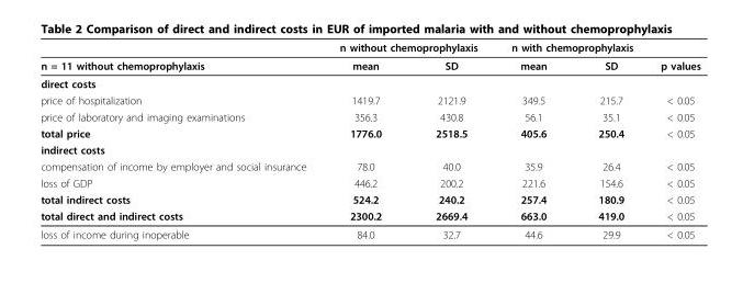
<table><thead><tr><td rowspan="2">n = 11 without chemoprophylaxis</td><td colspan="2">n without chemoprophylaxis</td><td colspan="2">n with chemoprophylaxis</td><td rowspan="2">p values</td></tr><tr><td>mean</td><td>SD</td><td>mean</td><td>SD</td></tr></thead><tbody><tr><td colspan="6">direct costs</td></tr><tr><td>price of hospitalization</td><td>1419.7</td><td>2121.9</td><td>349.5</td><td>215.7</td><td>&lt; 0.05</td></tr><tr><td>price of laboratory and imaging examinations</td><td>356.3</td><td>430.8</td><td>56.1</td><td>35.1</td><td>&lt; 0.05</td></tr><tr><td>total price</td><td>1776.0</td><td>2518.5</td><td>405.6</td><td>250.4</td><td>&lt; 0.05</td></tr><tr><td colspan="6">indirect costs</td></tr><tr><td>compensation of income by employer and social insurance</td><td>78.0</td><td>40.0</td><td>35.9</td><td>26.4</td><td>&lt; 0.05</td></tr><tr><td>loss of GDP</td><td>446.2</td><td>200.2</td><td>221.6</td><td>154.6</td><td>&lt; 0.05</td></tr><tr><td>total indirect costs</td><td>524.2</td><td>240.2</td><td>257.4</td><td>180.9</td><td>&lt; 0.05</td></tr><tr><td>total direct and indirect costs</td><td>2300.2</td><td>2669.4</td><td>663.0</td><td>419.0</td><td>&lt; 0.05</td></tr><tr><td>loss of income during inoperable</td><td>84.0</td><td>32.7</td><td>44.6</td><td>29.9</td><td>&lt; 0.05</td></tr></tbody></table>